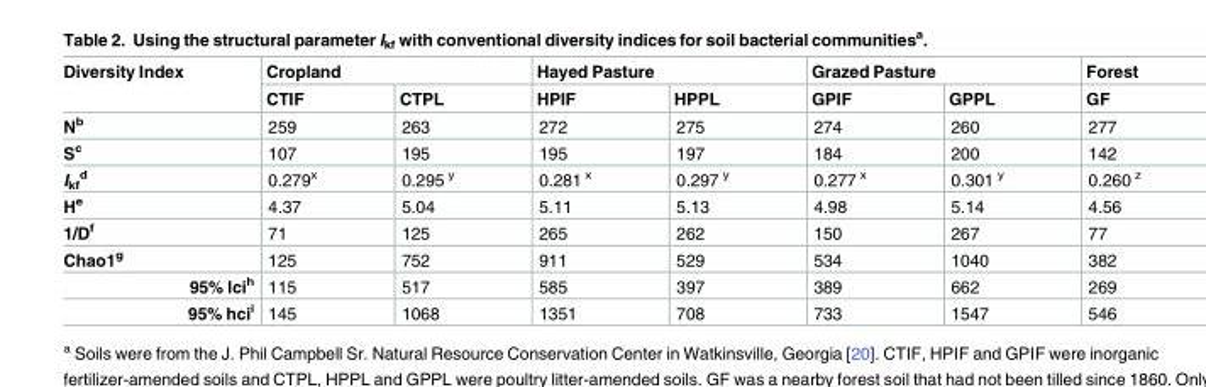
<table><thead><tr><td rowspan="2">Diversity Index</td><td colspan="2">Cropland</td><td colspan="2">Hayed Pasture</td><td colspan="2">Grazed Pasture</td><td rowspan="2">Forest GF</td></tr><tr><td>CTIF</td><td>CTPL</td><td>HPIF</td><td>HPPL</td><td>GPIF</td><td>GPPL</td></tr></thead><tbody><tr><td>N<sup>b</sup></td><td>259</td><td>263</td><td>272</td><td>275</td><td>274</td><td>260</td><td>277</td></tr><tr><td>S<sup>c</sup></td><td>107</td><td>195</td><td>195</td><td>197</td><td>184</td><td>200</td><td>142</td></tr><tr><td>I<sub>kf</sub> <sup>d</sup></td><td>0.279<sup>x</sup></td><td>0.295 <sup>y</sup></td><td>0.281 <sup>x</sup></td><td>0.297 <sup>y</sup></td><td>0.277 <sup>x</sup></td><td>0.301 <sup>y</sup></td><td>0.260 <sup>z</sup></td></tr><tr><td>H<sup>e</sup></td><td>4.37</td><td>5.04</td><td>5.11</td><td>5.13</td><td>4.98</td><td>5.14</td><td>4.56</td></tr><tr><td>1/D<sup>f</sup></td><td>71</td><td>125</td><td>265</td><td>262</td><td>150</td><td>267</td><td>77</td></tr><tr><td>Chao1<sup>g</sup></td><td>125</td><td>752</td><td>911</td><td>529</td><td>534</td><td>1040</td><td>382</td></tr><tr><td>95% lci<sup>h</sup></td><td>115</td><td>517</td><td>585</td><td>397</td><td>389</td><td>662</td><td>269</td></tr><tr><td>95% hci<sup>i</sup></td><td>145</td><td>1068</td><td>1351</td><td>708</td><td>733</td><td>1547</td><td>546</td></tr></tbody></table>